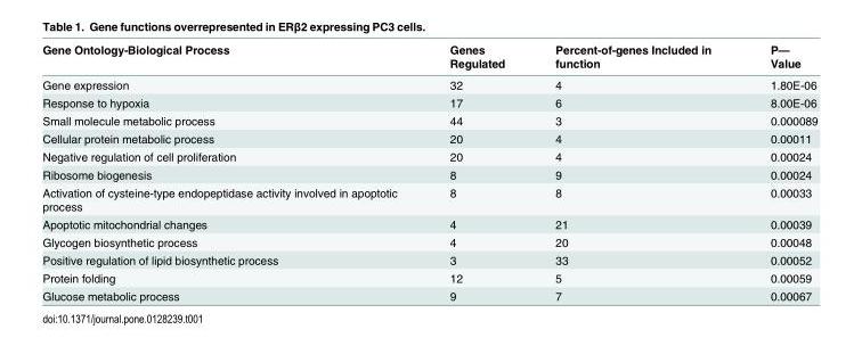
<table><thead><tr><td>Gene Ontology-Biological Process</td><td>Genes Regulated</td><td>Percent-of-genes Included in function</td><td>P— Value</td></tr></thead><tbody><tr><td>Gene expression</td><td>32</td><td>4</td><td>1.80E-06</td></tr><tr><td>Response to hypoxia</td><td>17</td><td>6</td><td>8.00E-06</td></tr><tr><td>Small molecule metabolic process</td><td>44</td><td>3</td><td>0.000089</td></tr><tr><td>Cellular protein metabolic process</td><td>20</td><td>4</td><td>0.00011</td></tr><tr><td>Negative regulation of cell proliferation</td><td>20</td><td>4</td><td>0.00024</td></tr><tr><td>Ribosome biogenesis</td><td>8</td><td>9</td><td>0.00024</td></tr><tr><td>Activation of cysteine-type endopeptidase activity involved in apoptotic process</td><td>8</td><td>8</td><td>0.00033</td></tr><tr><td>Apoptotic mitochondrial changes</td><td>4</td><td>21</td><td>0.00039</td></tr><tr><td>Glycogen biosynthetic process</td><td>4</td><td>20</td><td>0.00048</td></tr><tr><td>Positive regulation of lipid biosynthetic process</td><td>3</td><td>33</td><td>0.00052</td></tr><tr><td>Protein folding</td><td>12</td><td>5</td><td>0.00059</td></tr><tr><td>Glucose metabolic process</td><td>9</td><td>7</td><td>0.00067</td></tr></tbody></table>